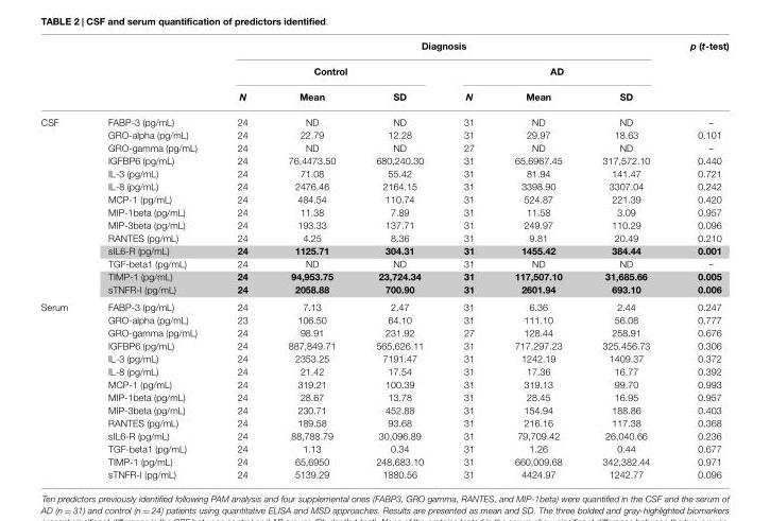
<table><thead><tr><td rowspan="3"></td><td rowspan="3"></td><td colspan="6">Diagnosis</td><td rowspan="3">p (t-test)</td></tr><tr><td colspan="3">Control</td><td colspan="3">AD</td></tr><tr><td>N</td><td>Mean</td><td>SD</td><td>N</td><td>Mean</td><td>SD</td></tr></thead><tbody><tr><td rowspan="14">CSF</td><td>FABP-3 (pg/mL)</td><td>24</td><td>ND</td><td>ND</td><td>31</td><td>ND</td><td>ND</td><td>–</td></tr><tr><td>GRO-alpha (pg/mL)</td><td>24</td><td>22.79</td><td>12.28</td><td>31</td><td>29.97</td><td>18.63</td><td>0.101</td></tr><tr><td>GRO-gamma (pg/mL)</td><td>24</td><td>ND</td><td>ND</td><td>27</td><td>ND</td><td>ND</td><td>–</td></tr><tr><td>IGFBP6 (pg/mL)</td><td>24</td><td>76,4473.50</td><td>680,240.30</td><td>31</td><td>65,6967.45</td><td>317,572.10</td><td>0.440</td></tr><tr><td>IL-3 (pg/mL)</td><td>24</td><td>71.08</td><td>55.42</td><td>31</td><td>81.94</td><td>141.47</td><td>0.721</td></tr><tr><td>IL-8 (pg/mL)</td><td>24</td><td>2476.46</td><td>2164.15</td><td>31</td><td>3398.90</td><td>3307.04</td><td>0.242</td></tr><tr><td>MCP-1 (pg/mL)</td><td>24</td><td>484.54</td><td>110.74</td><td>31</td><td>524.87</td><td>221.39</td><td>0.420</td></tr><tr><td>MIP-1beta (pg/mL)</td><td>24</td><td>11.38</td><td>7.89</td><td>31</td><td>11.58</td><td>3.09</td><td>0.957</td></tr><tr><td>MIP-3beta (pg/mL)</td><td>24</td><td>193.33</td><td>137.71</td><td>31</td><td>249.97</td><td>110.29</td><td>0.096</td></tr><tr><td>RANTES (pg/mL)</td><td>24</td><td>4.25</td><td>8.36</td><td>31</td><td>9.81</td><td>20.49</td><td>0.210</td></tr><tr><td>sIL6-R (pg/mL)</td><td>24</td><td>1125.71</td><td>304.31</td><td>31</td><td>1455.42</td><td>384.44</td><td>0.001</td></tr><tr><td>TGF-beta1 (pg/mL)</td><td>24</td><td>ND</td><td>ND</td><td>31</td><td>ND</td><td>ND</td><td>–</td></tr><tr><td>TIMP-1 (pg/mL)</td><td>24</td><td>94,953.75</td><td>23,724.34</td><td>31</td><td>117,507.10</td><td>31,685.66</td><td>0.005</td></tr><tr><td>sTNFR-I (pg/mL)</td><td>24</td><td>2058.88</td><td>700.90</td><td>31</td><td>2601.94</td><td>693.10</td><td>0.006</td></tr><tr><td rowspan="14">Serum</td><td>FABP-3 (pg/mL)</td><td>24</td><td>7.13</td><td>2.47</td><td>31</td><td>6.36</td><td>2.44</td><td>0.247</td></tr><tr><td>GRO-alpha (pg/mL)</td><td>23</td><td>106.50</td><td>64.10</td><td>31</td><td>111.10</td><td>56.08</td><td>0.777</td></tr><tr><td>GRO-gamma (pg/mL)</td><td>24</td><td>98.91</td><td>231.92</td><td>27</td><td>128.44</td><td>258.91</td><td>0.676</td></tr><tr><td>IGFBP6 (pg/mL)</td><td>24</td><td>887,849.71</td><td>565,626.11</td><td>31</td><td>717,297.23</td><td>325,456.73</td><td>0.306</td></tr><tr><td>IL-3 (pg/mL)</td><td>24</td><td>2353.25</td><td>7191.47</td><td>31</td><td>1242.19</td><td>1409.37</td><td>0.372</td></tr><tr><td>IL-8 (pg/mL)</td><td>24</td><td>21.42</td><td>17.54</td><td>31</td><td>17.36</td><td>16.77</td><td>0.392</td></tr><tr><td>MCP-1 (pg/mL)</td><td>24</td><td>319.21</td><td>100.39</td><td>31</td><td>319.13</td><td>99.70</td><td>0.993</td></tr><tr><td>MIP-1beta (pg/mL)</td><td>24</td><td>28.67</td><td>13.78</td><td>31</td><td>28.45</td><td>16.95</td><td>0.957</td></tr><tr><td>MIP-3beta (pg/mL)</td><td>24</td><td>230.71</td><td>452.88</td><td>31</td><td>154.94</td><td>188.86</td><td>0.403</td></tr><tr><td>RANTES (pg/mL)</td><td>24</td><td>189.58</td><td>93.68</td><td>31</td><td>216.16</td><td>117.38</td><td>0.368</td></tr><tr><td>sIL6-R (pg/mL)</td><td>24</td><td>88,788.79</td><td>30,096.89</td><td>31</td><td>79,709.42</td><td>26,040.66</td><td>0.236</td></tr><tr><td>TGF-beta1 (pg/mL)</td><td>24</td><td>1.13</td><td>0.34</td><td>31</td><td>1.26</td><td>0.44</td><td>0.677</td></tr><tr><td>TIMP-1 (pg/mL)</td><td>24</td><td>65,6950</td><td>248,683.10</td><td>31</td><td>660,009.68</td><td>342,382.44</td><td>0.971</td></tr><tr><td>sTNFR-I (pg/mL)</td><td>24</td><td>5139.29</td><td>1880.56</td><td>31</td><td>4424.97</td><td>1242.77</td><td>0.096</td></tr></tbody></table>